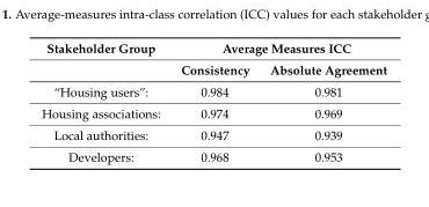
<table><thead><tr><td rowspan="2">Stakeholder Group</td><td colspan="2">Average Measures ICC</td></tr><tr><td>Consistency</td><td>Absolute Agreement</td></tr></thead><tbody><tr><td>“Housing users”:</td><td>0.984</td><td>0.981</td></tr><tr><td>Housing associations:</td><td>0.974</td><td>0.969</td></tr><tr><td>Local authorities:</td><td>0.947</td><td>0.939</td></tr><tr><td>Developers:</td><td>0.968</td><td>0.953</td></tr></tbody></table>